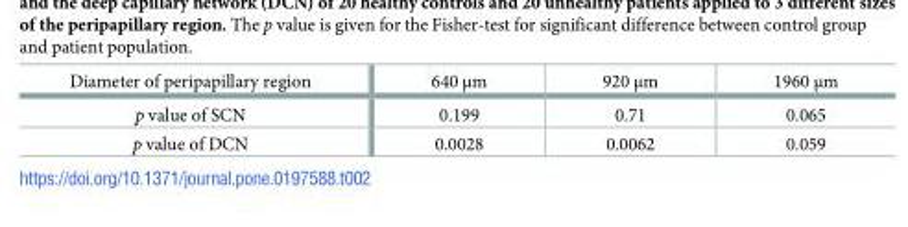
<table><tbody><tr><td>Diameter of peripapillary region</td><td>640 μm</td><td>920 μm</td><td>1960 μm</td></tr><tr><td>p value of SCN</td><td>0.199</td><td>0.71</td><td>0.065</td></tr><tr><td>p value of DCN</td><td>0.0028</td><td>0.0062</td><td>0.059</td></tr></tbody></table>